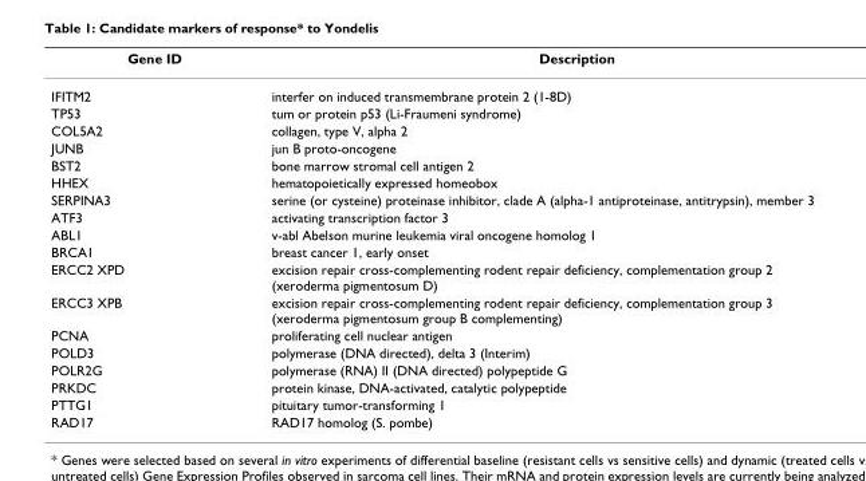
<table><thead><tr><td>Gene ID</td><td>Description</td></tr></thead><tbody><tr><td>IFITM2</td><td>interfer on induced transmembrane protein 2 (1-8D)</td></tr><tr><td>TP53</td><td>tum or protein p53 (Li-Fraumeni syndrome)</td></tr><tr><td>COL5A2</td><td>collagen, type V, alpha 2</td></tr><tr><td>JUNB</td><td>jun B proto-oncogene</td></tr><tr><td>BST2</td><td>bone marrow stromal cell antigen 2</td></tr><tr><td>HHEX</td><td>hematopoietically expressed homeobox</td></tr><tr><td>SERPINA3</td><td>serine (or cysteine) proteinase inhibitor, clade A (alpha-1 antiproteinase, antitrypsin), member 3</td></tr><tr><td>ATF3</td><td>activating transcription factor 3</td></tr><tr><td>ABL1</td><td>v-abl Abelson murine leukemia viral oncogene homolog 1</td></tr><tr><td>BRCA1</td><td>breast cancer 1, early onset</td></tr><tr><td>ERCC2 XPD</td><td>excision repair cross-complementing rodent repair deficiency, complementation group 2 (xeroderma pigmentosum D)</td></tr><tr><td>ERCC3 XPB</td><td>excision repair cross-complementing rodent repair deficiency, complementation group 3 (xeroderma pigmentosum group B complementing)</td></tr><tr><td>PCNA</td><td>proliferating cell nuclear antigen</td></tr><tr><td>POLD3</td><td>polymerase (DNA directed), delta 3 (Interim)</td></tr><tr><td>POLR2G</td><td>polymerase (RNA) II (DNA directed) polypeptide G</td></tr><tr><td>PRKDC</td><td>protein kinase, DNA-activated, catalytic polypeptide</td></tr><tr><td>PTTG1</td><td>pituitary tumor-transforming 1</td></tr><tr><td>RAD17</td><td>RAD17 homolog (S. pombe)</td></tr></tbody></table>